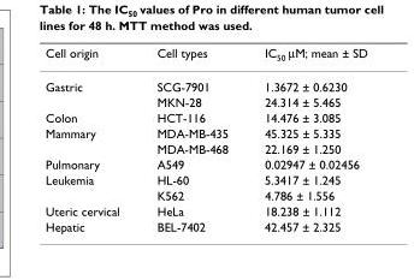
<table><thead><tr><td>Cell origin</td><td>Cell types</td><td>IC<sub>50</sub> µM; mean ± SD</td></tr></thead><tbody><tr><td rowspan="2">Gastric</td><td>SCG-7901</td><td>1.3672 ± 0.6230</td></tr><tr><td>MKN-28</td><td>24.314 ± 5.465</td></tr><tr><td>Colon</td><td>HCT-116</td><td>14.476 ± 3.085</td></tr><tr><td rowspan="2">Mammary</td><td>MDA-MB-435</td><td>45.325 ± 5.335</td></tr><tr><td>MDA-MB-468</td><td>22.169 ± 1.250</td></tr><tr><td>Pulmonary</td><td>A549</td><td>0.02947 ± 0.02456</td></tr><tr><td rowspan="2">Leukemia</td><td>HL-60</td><td>5.3417 ± 1.245</td></tr><tr><td>K562</td><td>4.786 ± 1.556</td></tr><tr><td>Uteric cervical</td><td>HeLa</td><td>18.238 ± 1.112</td></tr><tr><td>Hepatic</td><td>BEL-7402</td><td>42.457 ± 2.325</td></tr></tbody></table>